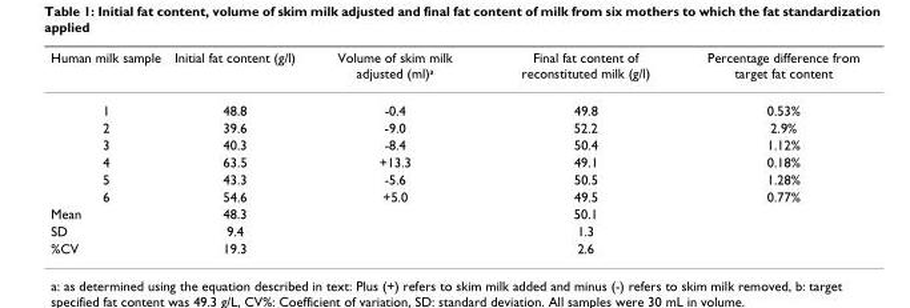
<table><thead><tr><td>Human milk sample</td><td>Initial fat content (g/l)</td><td>Volume of skim milk adjusted (ml)<sup>a</sup></td><td>Final fat content of reconstituted milk (g/l)</td><td>Percentage difference from target fat content</td></tr></thead><tbody><tr><td>1</td><td>48.8</td><td>-0.4</td><td>49.8</td><td>0.53%</td></tr><tr><td>2</td><td>39.6</td><td>-9.0</td><td>52.2</td><td>2.9%</td></tr><tr><td>3</td><td>40.3</td><td>-8.4</td><td>50.4</td><td>1.12%</td></tr><tr><td>4</td><td>63.5</td><td>+13.3</td><td>49.1</td><td>0.18%</td></tr><tr><td>5</td><td>43.3</td><td>-5.6</td><td>50.5</td><td>1.28%</td></tr><tr><td>6</td><td>54.6</td><td>+5.0</td><td>49.5</td><td>0.77%</td></tr><tr><td>Mean</td><td>48.3</td><td></td><td>50.1</td><td></td></tr><tr><td>SD</td><td>9.4</td><td></td><td>1.3</td><td></td></tr><tr><td>%CV</td><td>19.3</td><td></td><td>2.6</td><td></td></tr></tbody></table>